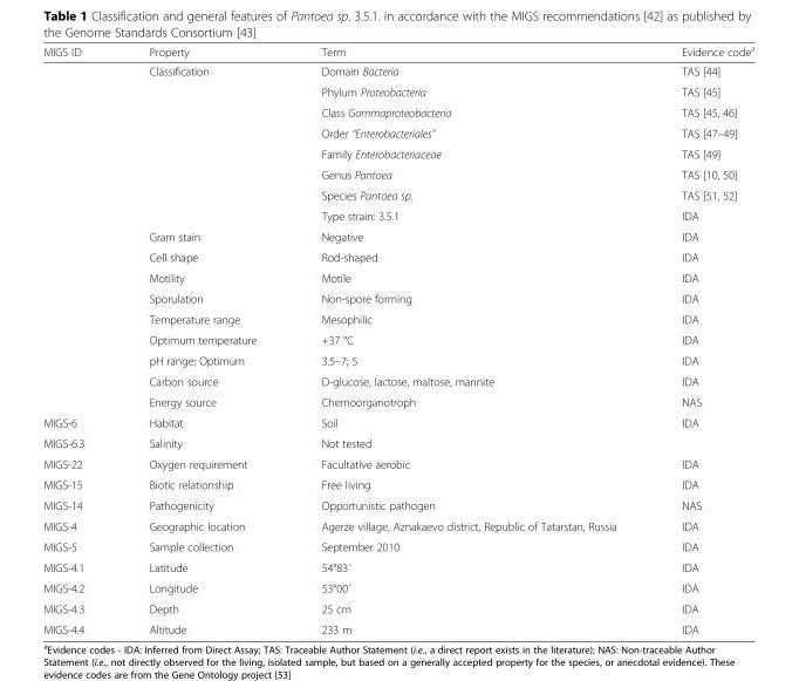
<table><thead><tr><td>MIGS ID</td><td>Property</td><td>Term</td><td>Evidence code<sup>a</sup></td></tr></thead><tbody><tr><td></td><td>Classification</td><td>Domain Bacteria</td><td>TAS [44]</td></tr><tr><td></td><td></td><td>Phylum Proteobacteria</td><td>TAS [45]</td></tr><tr><td></td><td></td><td>Class Gammaproteobacteria</td><td>TAS [45, 46]</td></tr><tr><td></td><td></td><td>Order “Enterobacteriales”</td><td>TAS [47–49]</td></tr><tr><td></td><td></td><td>Family Enterobacteriaceae</td><td>TAS [49]</td></tr><tr><td></td><td></td><td>Genus Pantoea</td><td>TAS [10, 50]</td></tr><tr><td></td><td></td><td>Species Pantoea sp.</td><td>TAS [51, 52]</td></tr><tr><td></td><td></td><td>Type strain: 3.5.1</td><td>IDA</td></tr><tr><td></td><td>Gram stain</td><td>Negative</td><td>IDA</td></tr><tr><td></td><td>Cell shape</td><td>Rod-shaped</td><td>IDA</td></tr><tr><td></td><td>Motility</td><td>Motile</td><td>IDA</td></tr><tr><td></td><td>Sporulation</td><td>Non-spore forming</td><td>IDA</td></tr><tr><td></td><td>Temperature range</td><td>Mesophilic</td><td>IDA</td></tr><tr><td></td><td>Optimum temperature</td><td>+37 °C</td><td>IDA</td></tr><tr><td></td><td>pH range; Optimum</td><td>3.5–7; 5</td><td>IDA</td></tr><tr><td></td><td>Carbon source</td><td>D-glucose, lactose, maltose, mannite</td><td>IDA</td></tr><tr><td></td><td>Energy source</td><td>Chemoorganotroph</td><td>NAS</td></tr><tr><td>MIGS-6</td><td>Habitat</td><td>Soil</td><td>IDA</td></tr><tr><td>MIGS-6.3</td><td>Salinity</td><td>Not tested</td><td></td></tr><tr><td>MIGS-22</td><td>Oxygen requirement</td><td>Facultative aerobic</td><td>IDA</td></tr><tr><td>MIGS-15</td><td>Biotic relationship</td><td>Free living</td><td>IDA</td></tr><tr><td>MIGS-14</td><td>Pathogenicity</td><td>Opportunistic pathogen</td><td>NAS</td></tr><tr><td>MIGS-4</td><td>Geographic location</td><td>Agerze village, Aznakaevo district, Republic of Tatarstan, Russia</td><td>IDA</td></tr><tr><td>MIGS-5</td><td>Sample collection</td><td>September 2010</td><td>IDA</td></tr><tr><td>MIGS-4.1</td><td>Latitude</td><td>54°83´</td><td>IDA</td></tr><tr><td>MIGS-4.2</td><td>Longitude</td><td>53°00´</td><td>IDA</td></tr><tr><td>MIGS-4.3</td><td>Depth</td><td>25 cm</td><td>IDA</td></tr><tr><td>MIGS-4.4</td><td>Altitude</td><td>233 m</td><td>IDA</td></tr></tbody></table>